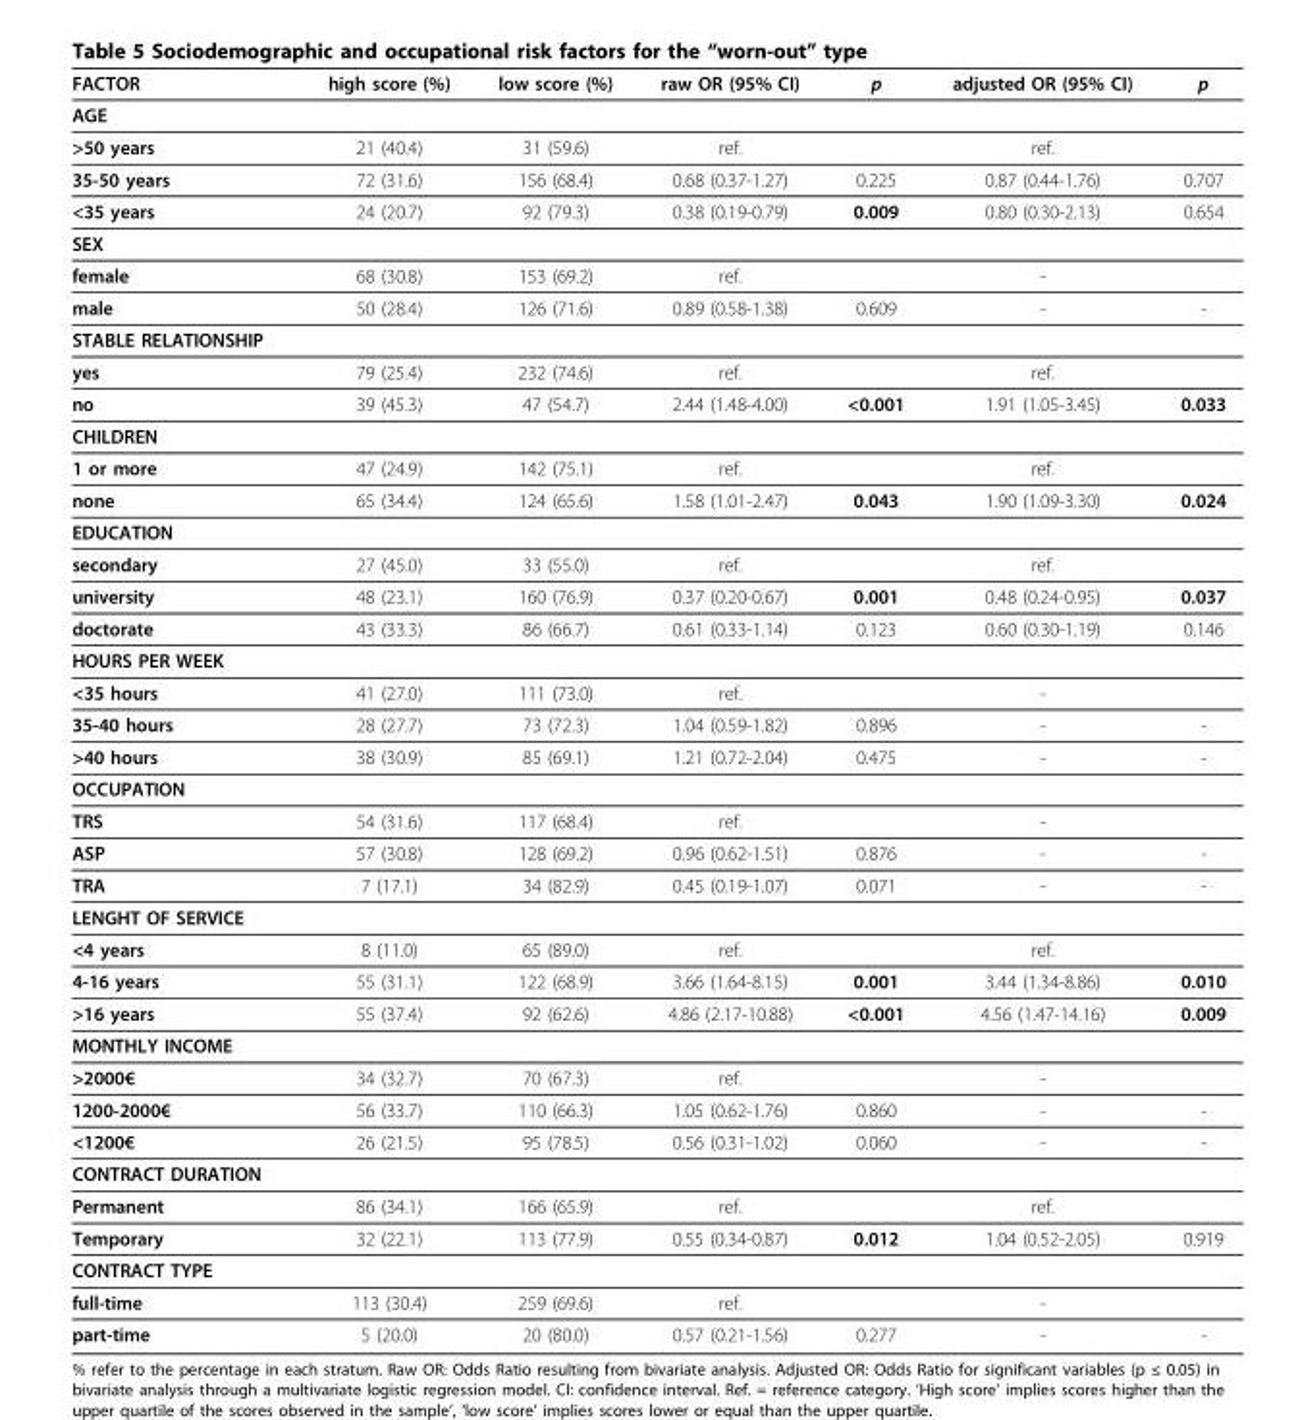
<table><thead><tr><td>FACTOR</td><td>high score (%)</td><td>low score (%)</td><td>raw OR (95% CI)</td><td>p</td><td>adjusted OR (95% CI)</td><td>p</td></tr></thead><tbody><tr><td colspan="7">AGE</td></tr><tr><td>&gt;50 years</td><td>21 (40.4)</td><td>31 (59.6)</td><td>ref.</td><td></td><td>ref.</td><td></td></tr><tr><td>35-50 years</td><td>72 (31.6)</td><td>156 (68.4)</td><td>0.68 (0.37-1.27)</td><td>0.225</td><td>0.87 (0.44-1.76)</td><td>0.707</td></tr><tr><td>&lt;35 years</td><td>24 (20.7)</td><td>92 (79.3)</td><td>0.38 (0.19-0.79)</td><td>0.009</td><td>0.80 (0.30-2.13)</td><td>0.654</td></tr><tr><td colspan="7">SEX</td></tr><tr><td>female</td><td>68 (30.8)</td><td>153 (69.2)</td><td>ref.</td><td></td><td>-</td><td></td></tr><tr><td>male</td><td>50 (28.4)</td><td>126 (71.6)</td><td>0.89 (0.58-1.38)</td><td>0.609</td><td>-</td><td>-</td></tr><tr><td colspan="7">STABLE RELATIONSHIP</td></tr><tr><td>yes</td><td>79 (25.4)</td><td>232 (74.6)</td><td>ref.</td><td></td><td>ref.</td><td></td></tr><tr><td>no</td><td>39 (45.3)</td><td>47 (54.7)</td><td>2.44 (1.48-4.00)</td><td>&lt;0.001</td><td>1.91 (1.05-3.45)</td><td>0.033</td></tr><tr><td colspan="7">CHILDREN</td></tr><tr><td>1 or more</td><td>47 (24.9)</td><td>142 (75.1)</td><td>ref.</td><td></td><td>ref.</td><td></td></tr><tr><td>none</td><td>65 (34.4)</td><td>124 (65.6)</td><td>1.58 (1.01-2.47)</td><td>0.043</td><td>1.90 (1.09-3.30)</td><td>0.024</td></tr><tr><td colspan="7">EDUCATION</td></tr><tr><td>secondary</td><td>27 (45.0)</td><td>33 (55.0)</td><td>ref.</td><td></td><td>ref.</td><td></td></tr><tr><td>university</td><td>48 (23.1)</td><td>160 (76.9)</td><td>0.37 (0.20-0.67)</td><td>0.001</td><td>0.48 (0.24-0.95)</td><td>0.037</td></tr><tr><td>doctorate</td><td>43 (33.3)</td><td>86 (66.7)</td><td>0.61 (0.33-1.14)</td><td>0.123</td><td>0.60 (0.30-1.19)</td><td>0.146</td></tr><tr><td colspan="7">HOURS PER WEEK</td></tr><tr><td>&lt;35 hours</td><td>41 (27.0)</td><td>111 (73.0)</td><td>ref.</td><td></td><td>-</td><td></td></tr><tr><td>35-40 hours</td><td>28 (27.7)</td><td>73 (72.3)</td><td>1.04 (0.59-1.82)</td><td>0.896</td><td>-</td><td>-</td></tr><tr><td>&gt;40 hours</td><td>38 (30.9)</td><td>85 (69.1)</td><td>1.21 (0.72-2.04)</td><td>0.475</td><td>-</td><td>-</td></tr><tr><td colspan="7">OCCUPATION</td></tr><tr><td>TRS</td><td>54 (31.6)</td><td>117 (68.4)</td><td>ref.</td><td></td><td>-</td><td></td></tr><tr><td>ASP</td><td>57 (30.8)</td><td>128 (69.2)</td><td>0.96 (0.62-1.51)</td><td>0.876</td><td>-</td><td>-</td></tr><tr><td>TRA</td><td>7 (17.1)</td><td>34 (82.9)</td><td>0.45 (0.19-1.07)</td><td>0.071</td><td>-</td><td>-</td></tr><tr><td colspan="7">LENGHT OF SERVICE</td></tr><tr><td>&lt;4 years</td><td>8 (11.0)</td><td>65 (89.0)</td><td>ref.</td><td></td><td>ref.</td><td></td></tr><tr><td>4-16 years</td><td>55 (31.1)</td><td>122 (68.9)</td><td>3.66 (1.64-8.15)</td><td>0.001</td><td>3.44 (1.34-8.86)</td><td>0.010</td></tr><tr><td>&gt;16 years</td><td>55 (37.4)</td><td>92 (62.6)</td><td>4.86 (2.17-10.88)</td><td>&lt;0.001</td><td>4.56 (1.47-14.16)</td><td>0.009</td></tr><tr><td colspan="7">MONTHLY INCOME</td></tr><tr><td>&gt;2000€</td><td>34 (32.7)</td><td>70 (67.3)</td><td>ref.</td><td></td><td>-</td><td></td></tr><tr><td>1200-2000€</td><td>56 (33.7)</td><td>110 (66.3)</td><td>1.05 (0.62-1.76)</td><td>0.860</td><td>-</td><td>-</td></tr><tr><td>&lt;1200€</td><td>26 (21.5)</td><td>95 (78.5)</td><td>0.56 (0.31-1.02)</td><td>0.060</td><td>-</td><td>-</td></tr><tr><td colspan="7">CONTRACT DURATION</td></tr><tr><td>Permanent</td><td>86 (34.1)</td><td>166 (65.9)</td><td>ref.</td><td></td><td>ref.</td><td></td></tr><tr><td>Temporary</td><td>32 (22.1)</td><td>113 (77.9)</td><td>0.55 (0.34-0.87)</td><td>0.012</td><td>1.04 (0.52-2.05)</td><td>0.919</td></tr><tr><td colspan="7">CONTRACT TYPE</td></tr><tr><td>full-time</td><td>113 (30.4)</td><td>259 (69.6)</td><td>ref.</td><td></td><td>-</td><td></td></tr><tr><td>part-time</td><td>5 (20.0)</td><td>20 (80.0)</td><td>0.57 (0.21-1.56)</td><td>0.277</td><td>-</td><td>-</td></tr></tbody></table>